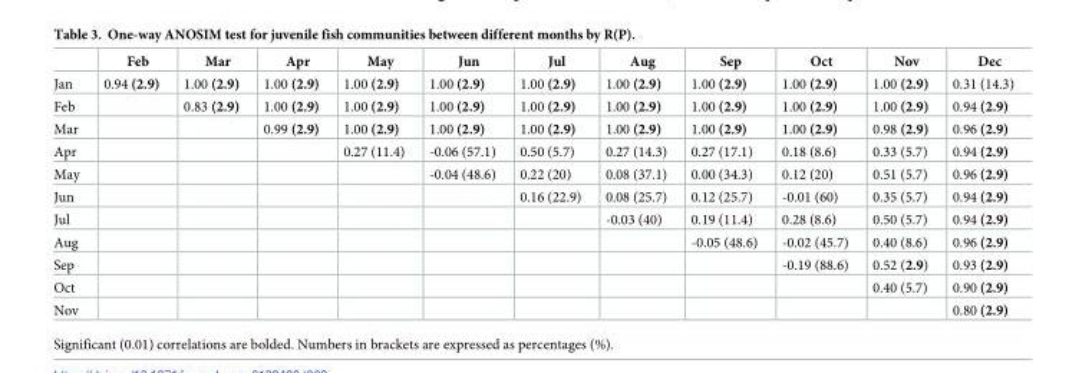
<table><thead><tr><td></td><td>Feb</td><td>Mar</td><td>Apr</td><td>May</td><td>Jun</td><td>Jul</td><td>Aug</td><td>Sep</td><td>Oct</td><td>Nov</td><td>Dec</td></tr></thead><tbody><tr><td>Jan</td><td>0.94 (2.9)</td><td>1.00 (2.9)</td><td>1.00 (2.9)</td><td>1.00 (2.9)</td><td>1.00 (2.9)</td><td>1.00 (2.9)</td><td>1.00 (2.9)</td><td>1.00 (2.9)</td><td>1.00 (2.9)</td><td>1.00 (2.9)</td><td>0.31 (14.3)</td></tr><tr><td>Feb</td><td></td><td>0.83 (2.9)</td><td>1.00 (2.9)</td><td>1.00 (2.9)</td><td>1.00 (2.9)</td><td>1.00 (2.9)</td><td>1.00 (2.9)</td><td>1.00 (2.9)</td><td>1.00 (2.9)</td><td>1.00 (2.9)</td><td>0.94 (2.9)</td></tr><tr><td>Mar</td><td></td><td></td><td>0.99 (2.9)</td><td>1.00 (2.9)</td><td>1.00 (2.9)</td><td>1.00 (2.9)</td><td>1.00 (2.9)</td><td>1.00 (2.9)</td><td>1.00 (2.9)</td><td>0.98 (2.9)</td><td>0.96 (2.9)</td></tr><tr><td>Apr</td><td></td><td></td><td></td><td>0.27 (11.4)</td><td>-0.06 (57.1)</td><td>0.50 (5.7)</td><td>0.27 (14.3)</td><td>0.27 (17.1)</td><td>0.18 (8.6)</td><td>0.33 (5.7)</td><td>0.94 (2.9)</td></tr><tr><td>May</td><td></td><td></td><td></td><td></td><td>-0.04 (48.6)</td><td>0.22 (20)</td><td>0.08 (37.1)</td><td>0.00 (34.3)</td><td>0.12 (20)</td><td>0.51 (5.7)</td><td>0.96 (2.9)</td></tr><tr><td>Jun</td><td></td><td></td><td></td><td></td><td></td><td>0.16 (22.9)</td><td>0.08 (25.7)</td><td>0.12 (25.7)</td><td>-0.01 (60)</td><td>0.35 (5.7)</td><td>0.94 (2.9)</td></tr><tr><td>Jul</td><td></td><td></td><td></td><td></td><td></td><td></td><td>-0.03 (40)</td><td>0.19 (11.4)</td><td>0.28 (8.6)</td><td>0.50 (5.7)</td><td>0.94 (2.9)</td></tr><tr><td>Aug</td><td></td><td></td><td></td><td></td><td></td><td></td><td></td><td>-0.05 (48.6)</td><td>-0.02 (45.7)</td><td>0.40 (8.6)</td><td>0.96 (2.9)</td></tr><tr><td>Sep</td><td></td><td></td><td></td><td></td><td></td><td></td><td></td><td></td><td>-0.19 (88.6)</td><td>0.52 (2.9)</td><td>0.93 (2.9)</td></tr><tr><td>Oct</td><td></td><td></td><td></td><td></td><td></td><td></td><td></td><td></td><td></td><td>0.40 (5.7)</td><td>0.90 (2.9)</td></tr><tr><td>Nov</td><td></td><td></td><td></td><td></td><td></td><td></td><td></td><td></td><td></td><td></td><td>0.80 (2.9)</td></tr></tbody></table>